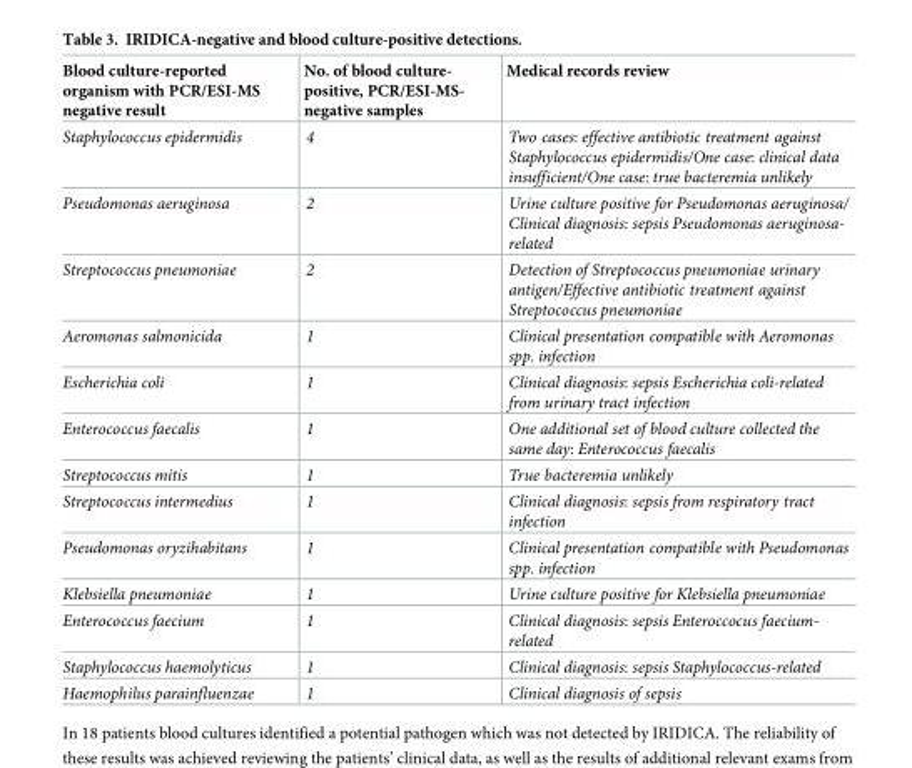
<table><thead><tr><td>Blood culture-reported organism with PCR/ESI-MS negative result</td><td>No. of blood culture- positive, PCR/ESI-MS- negative samples</td><td>Medical records review</td></tr></thead><tbody><tr><td>Staphylococcus epidermidis</td><td>4</td><td>Two cases: effective antibiotic treatment against Staphylococcus epidermidis/One case: clinical data insufficient/One case: true bacteremia unlikely</td></tr><tr><td>Pseudomonas aeruginosa</td><td>2</td><td>Urine culture positive for Pseudomonas aeruginosa/ Clinical diagnosis: sepsis Pseudomonas aeruginosa- related</td></tr><tr><td>Streptococcus pneumoniae</td><td>2</td><td>Detection of Streptococcus pneumoniae urinary antigen/Effective antibiotic treatment against Streptococcus pneumoniae</td></tr><tr><td>Aeromonas salmonicida</td><td>1</td><td>Clinical presentation compatible with Aeromonas spp. infection</td></tr><tr><td>Escherichia coli</td><td>1</td><td>Clinical diagnosis: sepsis Escherichia coli-related from urinary tract infection</td></tr><tr><td>Enterococcus faecalis</td><td>1</td><td>One additional set of blood culture collected the same day: Enterococcus faecalis</td></tr><tr><td>Streptococcus mitis</td><td>1</td><td>True bacteremia unlikely</td></tr><tr><td>Streptococcus intermedius</td><td>1</td><td>Clinical diagnosis: sepsis from respiratory tract infection</td></tr><tr><td>Pseudomonas oryzihabitans</td><td>1</td><td>Clinical presentation compatible with Pseudomonas spp. infection</td></tr><tr><td>Klebsiella pneumoniae</td><td>1</td><td>Urine culture positive for Klebsiella pneumoniae</td></tr><tr><td>Enterococcus faecium</td><td>1</td><td>Clinical diagnosis: sepsis Enteroccocus faecium- related</td></tr><tr><td>Staphylococcus haemolyticus</td><td>1</td><td>Clinical diagnosis: sepsis Staphylococcus-related</td></tr><tr><td>Haemophilus parainfluenzae</td><td>1</td><td>Clinical diagnosis of sepsis</td></tr></tbody></table>